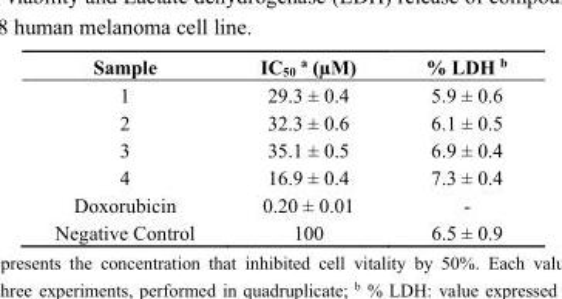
<table><thead><tr><td>Sample</td><td>IC<sub>50</sub> <sup>a</sup> (µM)</td><td>% LDH <sup>b</sup></td></tr></thead><tbody><tr><td>1</td><td>29.3 ± 0.4</td><td>5.9 ± 0.6</td></tr><tr><td>2</td><td>32.3 ± 0.6</td><td>6.1 ± 0.5</td></tr><tr><td>3</td><td>35.1 ± 0.5</td><td>6.9 ± 0.4</td></tr><tr><td>4</td><td>16.9 ± 0.4</td><td>7.3 ± 0.4</td></tr><tr><td>Doxorubicin</td><td>0.20 ± 0.01</td><td>-</td></tr><tr><td>Negative Control</td><td>100</td><td>6.5 ± 0.9</td></tr></tbody></table>